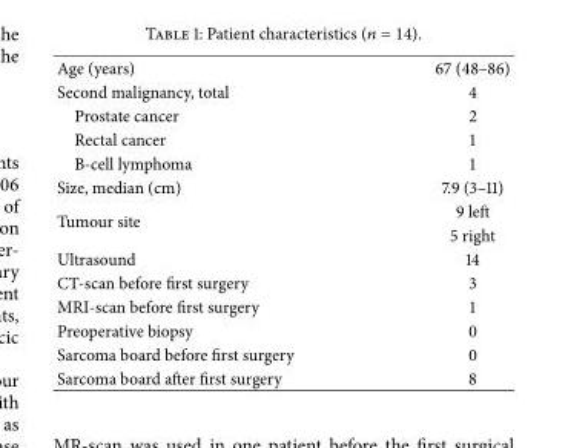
<table><tbody><tr><td>Age (years)</td><td>67 (48–86)</td></tr><tr><td>Second malignancy, total</td><td>4</td></tr><tr><td>Prostate cancer</td><td>2</td></tr><tr><td>Rectal cancer</td><td>1</td></tr><tr><td>B-cell lymphoma</td><td>1</td></tr><tr><td>Size, median (cm)</td><td>7.9 (3–11)</td></tr><tr><td rowspan="2">Tumour site</td><td>9 left</td></tr><tr><td>5 right</td></tr><tr><td>Ultrasound</td><td>14</td></tr><tr><td>CT-scan before first surgery</td><td>3</td></tr><tr><td>MRI-scan before first surgery</td><td>1</td></tr><tr><td>Preoperative biopsy</td><td>0</td></tr><tr><td>Sarcoma board before first surgery</td><td>0</td></tr><tr><td>Sarcoma board after first surgery</td><td>8</td></tr></tbody></table>